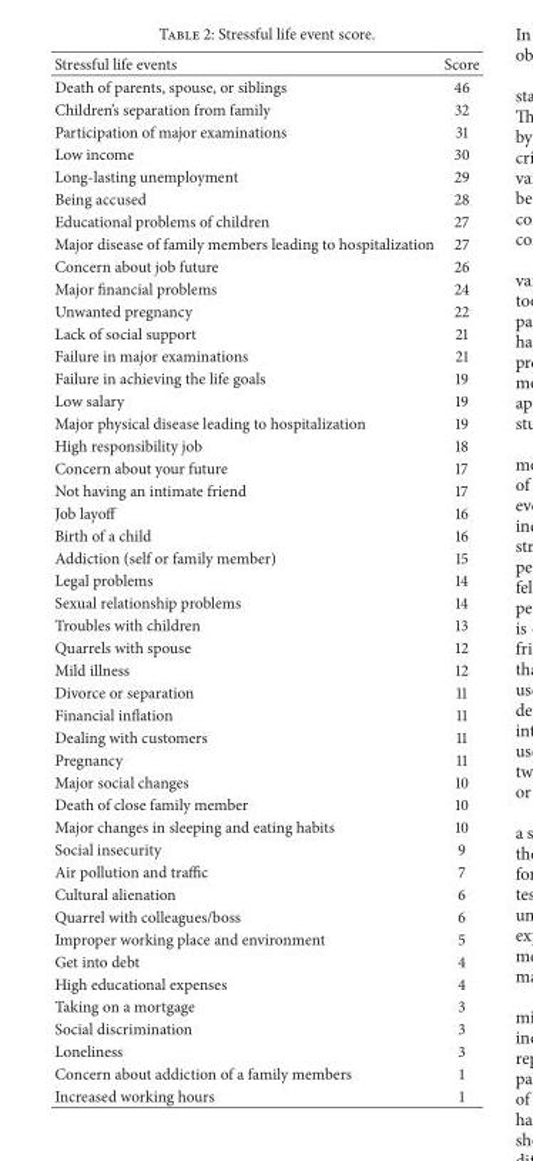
<table><thead><tr><td>Stressful life events</td><td>Score</td></tr></thead><tbody><tr><td>Death of parents, spouse, or siblings</td><td>46</td></tr><tr><td>Children’s separation from family</td><td>32</td></tr><tr><td>Participation of major examinations</td><td>31</td></tr><tr><td>Low income</td><td>30</td></tr><tr><td>Long-lasting unemployment</td><td>29</td></tr><tr><td>Being accused</td><td>28</td></tr><tr><td>Educational problems of children</td><td>27</td></tr><tr><td>Major disease of family members leading to hospitalization</td><td>27</td></tr><tr><td>Concern about job future</td><td>26</td></tr><tr><td>Major financial problems</td><td>24</td></tr><tr><td>Unwanted pregnancy</td><td>22</td></tr><tr><td>Lack of social support</td><td>21</td></tr><tr><td>Failure in major examinations</td><td>21</td></tr><tr><td>Failure in achieving the life goals</td><td>19</td></tr><tr><td>Low salary</td><td>19</td></tr><tr><td>Major physical disease leading to hospitalization</td><td>19</td></tr><tr><td>High responsibility job</td><td>18</td></tr><tr><td>Concern about your future</td><td>17</td></tr><tr><td>Not having an intimate friend</td><td>17</td></tr><tr><td>Job layoff</td><td>16</td></tr><tr><td>Birth of a child</td><td>16</td></tr><tr><td>Addiction (self or family member)</td><td>15</td></tr><tr><td>Legal problems</td><td>14</td></tr><tr><td>Sexual relationship problems</td><td>14</td></tr><tr><td>Troubles with children</td><td>13</td></tr><tr><td>Quarrels with spouse</td><td>12</td></tr><tr><td>Mild illness</td><td>12</td></tr><tr><td>Divorce or separation</td><td>11</td></tr><tr><td>Financial inflation</td><td>11</td></tr><tr><td>Dealing with customers</td><td>11</td></tr><tr><td>Pregnancy</td><td>11</td></tr><tr><td>Major social changes</td><td>10</td></tr><tr><td>Death of close family member</td><td>10</td></tr><tr><td>Major changes in sleeping and eating habits</td><td>10</td></tr><tr><td>Social insecurity</td><td>9</td></tr><tr><td>Air pollution and traffic</td><td>7</td></tr><tr><td>Cultural alienation</td><td>6</td></tr><tr><td>Quarrel with colleagues/boss</td><td>6</td></tr><tr><td>Improper working place and environment</td><td>5</td></tr><tr><td>Get into debt</td><td>4</td></tr><tr><td>High educational expenses</td><td>4</td></tr><tr><td>Taking on a mortgage</td><td>3</td></tr><tr><td>Social discrimination</td><td>3</td></tr><tr><td>Loneliness</td><td>3</td></tr><tr><td>Concern about addiction of a family members</td><td>1</td></tr><tr><td>Increased working hours</td><td>1</td></tr></tbody></table>